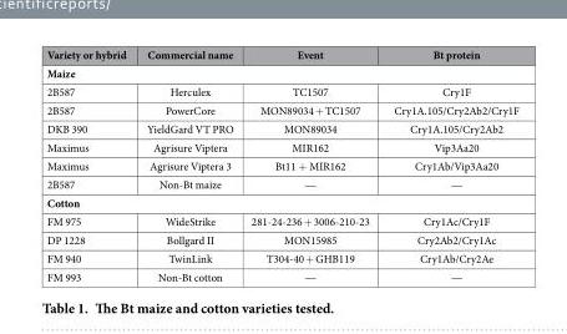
<table><thead><tr><td>Variety or hybrid</td><td>Commercial name</td><td>Event</td><td>Bt protein</td></tr></thead><tbody><tr><td colspan="4">Maize</td></tr><tr><td>2B587</td><td>Herculex</td><td>TC1507</td><td>Cry1F</td></tr><tr><td>2B587</td><td>PowerCore</td><td>MON89034 + TC1507</td><td>Cry1A.105/Cry2Ab2/Cry1F</td></tr><tr><td>DKB 390</td><td>YieldGard VT PRO</td><td>MON89034</td><td>Cry1A.105/Cry2Ab2</td></tr><tr><td>Maximus</td><td>Agrisure Viptera</td><td>MIR162</td><td>Vip3Aa20</td></tr><tr><td>Maximus</td><td>Agrisure Viptera 3</td><td>Bt11 + MIR162</td><td>Cry1Ab/Vip3Aa20</td></tr><tr><td>2B587</td><td>Non-Bt maize</td><td>—</td><td>—</td></tr><tr><td colspan="4">Cotton</td></tr><tr><td>FM 975</td><td>WideStrike</td><td>281-24-236 + 3006-210-23</td><td>Cry1Ac/Cry1F</td></tr><tr><td>DP 1228</td><td>Bollgard II</td><td>MON15985</td><td>Cry2Ab2/Cry1Ac</td></tr><tr><td>FM 940</td><td>TwinLink</td><td>T304-40 + GHB119</td><td>Cry1Ab/Cry2Ae</td></tr><tr><td>FM 993</td><td>Non-Bt cotton</td><td>—</td><td>—</td></tr></tbody></table>